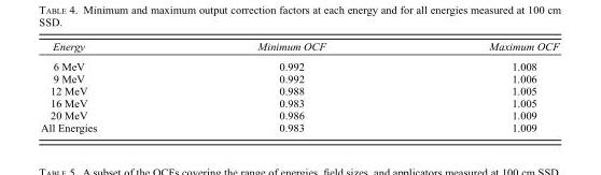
<table><thead><tr><td>Energy</td><td>Minimum OCF</td><td>Maximum OCF</td></tr></thead><tbody><tr><td>6 MeV</td><td>0.992</td><td>1.008</td></tr><tr><td>9 MeV</td><td>0.992</td><td>1.006</td></tr><tr><td>12 MeV</td><td>0.988</td><td>1.005</td></tr><tr><td>16 MeV</td><td>0.983</td><td>1.005</td></tr><tr><td>20 MeV</td><td>0.986</td><td>1.009</td></tr><tr><td>All Energies</td><td>0.983</td><td>1.009</td></tr></tbody></table>